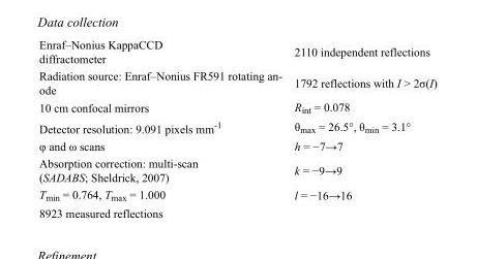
<table><tbody><tr><td>Enraf–Nonius KappaCCD diffractometer</td><td>2110 independent reflections</td></tr><tr><td>Radiation source: Enraf–Nonius FR591 rotating an- ode</td><td>1792 reflections with I &gt; 2σ(I)</td></tr><tr><td>10 cm confocal mirrors</td><td>R<sub>int</sub> = 0.078</td></tr><tr><td>Detector resolution: 9.091 pixels mm<sup>-1</sup></td><td>θ<sub>max</sub> = 26.5°, θ<sub>min</sub> = 3.1°</td></tr><tr><td>φ and ω scans</td><td>h = −7→7</td></tr><tr><td>Absorption correction: multi-scan (SADABS; Sheldrick, 2007)</td><td>k = −9→9</td></tr><tr><td>T<sub>min</sub> = 0.764, T<sub>max</sub> = 1.000</td><td>l = −16→16</td></tr><tr><td>8923 measured reflections</td><td></td></tr></tbody></table>